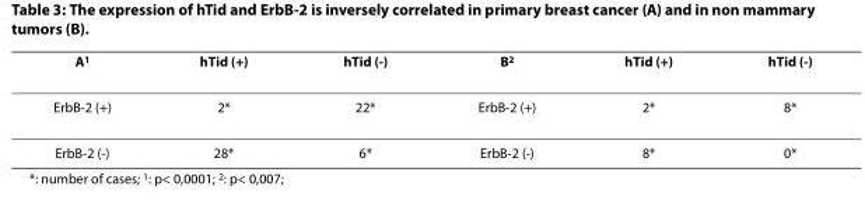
<table><thead><tr><td>A<sup>1</sup></td><td>hTid (+)</td><td>hTid (-)</td><td>B<sup>2</sup></td><td>hTid (+)</td><td>hTid (-)</td></tr></thead><tbody><tr><td>ErbB-2 (+)</td><td>2*</td><td>22*</td><td>ErbB-2 (+)</td><td>2*</td><td>8*</td></tr><tr><td>ErbB-2 (-)</td><td>28*</td><td>6*</td><td>ErbB-2 (-)</td><td>8*</td><td>0*</td></tr></tbody></table>